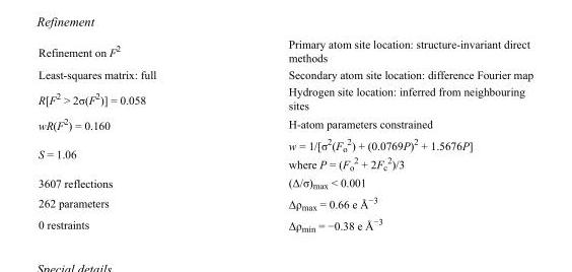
<table><tbody><tr><td>Refinement on F<sup>2</sup></td><td>Primary atom site location: structure-invariant direct methods</td></tr><tr><td>Least-squares matrix: full</td><td>Secondary atom site location: difference Fourier map</td></tr><tr><td>R[F<sup>2</sup> &gt; 2σ(F<sup>2</sup>)] = 0.058</td><td>Hydrogen site location: inferred from neighbouring sites</td></tr><tr><td>wR(F<sup>2</sup>) = 0.160</td><td>H-atom parameters constrained</td></tr><tr><td>S = 1.06</td><td>w = 1/[σ<sup>2</sup>(F<sub>o</sub> <sup>2</sup>) + (0.0769P)<sup>2</sup> + 1.5676P] where P = (F<sub>o</sub> <sup>2</sup> + 2F<sub>c</sub> <sup>2</sup>)/3</td></tr><tr><td>3607 reflections</td><td>(Δ/σ)<sub>max</sub> &lt; 0.001</td></tr><tr><td>262 parameters</td><td>Δρ<sub>max</sub> = 0.66 e Å<sup>−3</sup></td></tr><tr><td>0 restraints</td><td>Δρ<sub>min</sub> = −0.38 e Å<sup>−3</sup></td></tr></tbody></table>